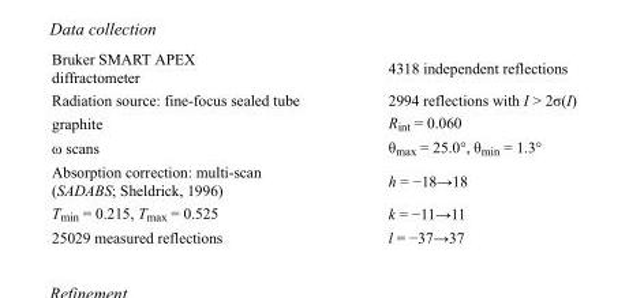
<table><tbody><tr><td>Bruker SMART APEX diffractometer</td><td>4318 independent reflections</td></tr><tr><td>Radiation source: fine-focus sealed tube</td><td>2994 reflections with I &gt; 2σ(I)</td></tr><tr><td>graphite</td><td>R<sub>int</sub> = 0.060</td></tr><tr><td>ω scans</td><td>θ<sub>max</sub> = 25.0°, θ<sub>min</sub> = 1.3°</td></tr><tr><td>Absorption correction: multi-scan (SADABS; Sheldrick, 1996)</td><td>h = −18→18</td></tr><tr><td>T<sub>min</sub> = 0.215, T<sub>max</sub> = 0.525</td><td>k = −11→11</td></tr><tr><td>25029 measured reflections</td><td>l = −37→37</td></tr></tbody></table>